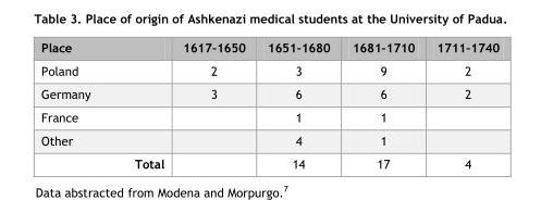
<table><thead><tr><td>Place</td><td>1617–1650</td><td>1651–1680</td><td>1681–1710</td><td>1711–1740</td></tr></thead><tbody><tr><td>Poland</td><td>2</td><td>3</td><td>9</td><td>2</td></tr><tr><td>Germany</td><td>3</td><td>6</td><td>6</td><td>2</td></tr><tr><td>France</td><td></td><td>1</td><td>1</td><td></td></tr><tr><td>Other</td><td></td><td>4</td><td>1</td><td></td></tr><tr><td>Total</td><td></td><td>14</td><td>17</td><td>4</td></tr></tbody></table>